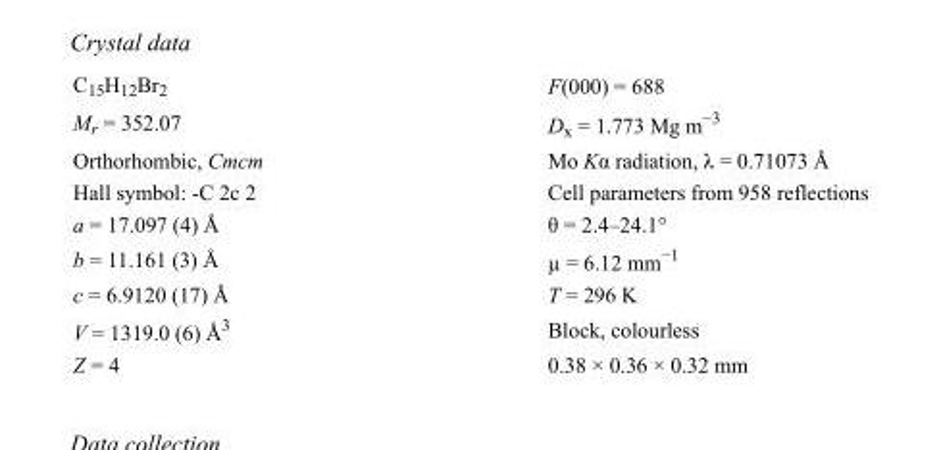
<table><tbody><tr><td>C<sub>15</sub>H<sub>12</sub>Br<sub>2</sub></td><td>F(000) = 688</td></tr><tr><td>M<sub>r</sub> = 352.07</td><td>D<sub>x</sub> = 1.773 Mg m<sup>−3</sup></td></tr><tr><td>Orthorhombic, Cmcm</td><td>Mo Kα radiation, λ = 0.71073 Å</td></tr><tr><td>Hall symbol: -C 2c 2</td><td>Cell parameters from 958 reflections</td></tr><tr><td>a = 17.097 (4) Å</td><td>θ = 2.4–24.1°</td></tr><tr><td>b = 11.161 (3) Å</td><td>µ = 6.12 mm<sup>−1</sup></td></tr><tr><td>c = 6.9120 (17) Å</td><td>T = 296 K</td></tr><tr><td>V = 1319.0 (6) Å<sup>3</sup></td><td>Block, colourless</td></tr><tr><td>Z = 4</td><td>0.38 × 0.36 × 0.32 mm</td></tr></tbody></table>